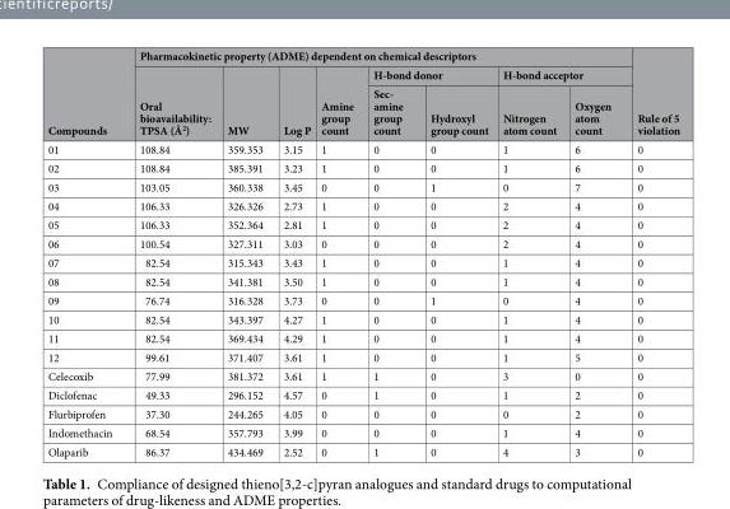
<table><thead><tr><td rowspan="3">Compounds</td><td colspan="8">Pharmacokinetic property (ADME) dependent on chemical descriptors</td><td rowspan="3">Rule of 5 violation</td></tr><tr><td rowspan="2">Oral bioavailability: TPSA (Å<sup>2</sup>)</td><td rowspan="2">MW</td><td rowspan="2">Log P</td><td rowspan="2">Amine group count</td><td colspan="2">H-bond donor</td><td colspan="2">H-bond acceptor</td></tr><tr><td>Sec- amine group count</td><td>Hydroxyl group count</td><td>Nitrogen atom count</td><td>Oxygen atom count</td></tr></thead><tbody><tr><td>01</td><td>108.84</td><td>359.353</td><td>3.15</td><td>1</td><td>0</td><td>0</td><td>1</td><td>6</td><td>0</td></tr><tr><td>02</td><td>108.84</td><td>385.391</td><td>3.23</td><td>1</td><td>0</td><td>0</td><td>1</td><td>6</td><td>0</td></tr><tr><td>03</td><td>103.05</td><td>360.338</td><td>3.45</td><td>0</td><td>0</td><td>1</td><td>0</td><td>7</td><td>0</td></tr><tr><td>04</td><td>106.33</td><td>326.326</td><td>2.73</td><td>1</td><td>0</td><td>0</td><td>2</td><td>4</td><td>0</td></tr><tr><td>05</td><td>106.33</td><td>352.364</td><td>2.81</td><td>1</td><td>0</td><td>0</td><td>2</td><td>4</td><td>0</td></tr><tr><td>06</td><td>100.54</td><td>327.311</td><td>3.03</td><td>0</td><td>0</td><td>0</td><td>2</td><td>4</td><td>0</td></tr><tr><td>07</td><td>82.54</td><td>315.343</td><td>3.43</td><td>1</td><td>0</td><td>0</td><td>1</td><td>4</td><td>0</td></tr><tr><td>08</td><td>82.54</td><td>341.381</td><td>3.50</td><td>1</td><td>0</td><td>0</td><td>1</td><td>4</td><td>0</td></tr><tr><td>09</td><td>76.74</td><td>316.328</td><td>3.73</td><td>0</td><td>0</td><td>1</td><td>0</td><td>4</td><td>0</td></tr><tr><td>10</td><td>82.54</td><td>343.397</td><td>4.27</td><td>1</td><td>0</td><td>0</td><td>1</td><td>4</td><td>0</td></tr><tr><td>11</td><td>82.54</td><td>369.434</td><td>4.29</td><td>1</td><td>0</td><td>0</td><td>1</td><td>4</td><td>0</td></tr><tr><td>12</td><td>99.61</td><td>371.407</td><td>3.61</td><td>1</td><td>0</td><td>0</td><td>1</td><td>5</td><td>0</td></tr><tr><td>Celecoxib</td><td>77.99</td><td>381.372</td><td>3.61</td><td>1</td><td>1</td><td>0</td><td>3</td><td>0</td><td>0</td></tr><tr><td>Diclofenac</td><td>49.33</td><td>296.152</td><td>4.57</td><td>0</td><td>1</td><td>0</td><td>1</td><td>2</td><td>0</td></tr><tr><td>Flurbiprofen</td><td>37.30</td><td>244.265</td><td>4.05</td><td>0</td><td>0</td><td>0</td><td>0</td><td>2</td><td>0</td></tr><tr><td>Indomethacin</td><td>68.54</td><td>357.793</td><td>3.99</td><td>0</td><td>0</td><td>0</td><td>1</td><td>4</td><td>0</td></tr><tr><td>Olaparib</td><td>86.37</td><td>434.469</td><td>2.52</td><td>0</td><td>1</td><td>0</td><td>4</td><td>3</td><td>0</td></tr></tbody></table>